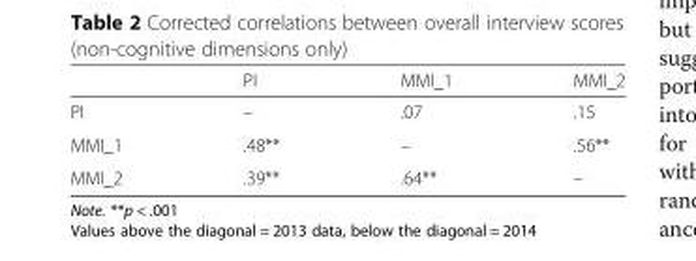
<table><thead><tr><td></td><td>PI</td><td>MMI_1</td><td>MMI_2</td></tr></thead><tbody><tr><td>PI</td><td>–</td><td>.07</td><td>.15</td></tr><tr><td>MMI_1</td><td>.48**</td><td>–</td><td>.56**</td></tr><tr><td>MMI_2</td><td>.39**</td><td>.64**</td><td>–</td></tr></tbody></table>